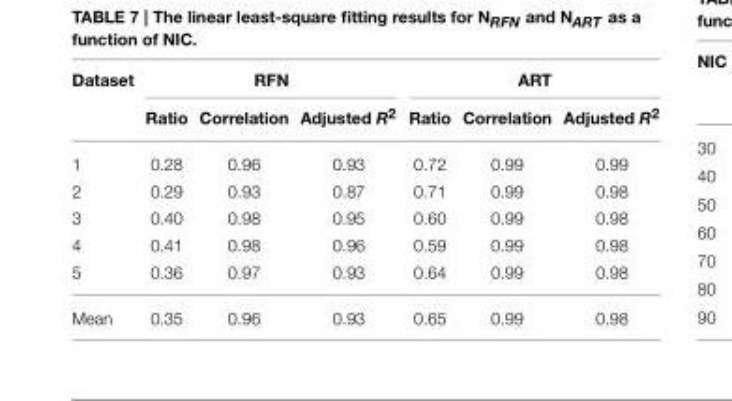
<table><thead><tr><td rowspan="2">Dataset</td><td colspan="3">RFN</td><td colspan="3">ART</td></tr><tr><td>Ratio</td><td>Correlation</td><td>Adjusted R<sup>2</sup></td><td>Ratio</td><td>Correlation</td><td>Adjusted R<sup>2</sup></td></tr></thead><tbody><tr><td>1</td><td>0.28</td><td>0.96</td><td>0.93</td><td>0.72</td><td>0.99</td><td>0.99</td></tr><tr><td>2</td><td>0.29</td><td>0.93</td><td>0.87</td><td>0.71</td><td>0.99</td><td>0.98</td></tr><tr><td>3</td><td>0.40</td><td>0.98</td><td>0.95</td><td>0.60</td><td>0.99</td><td>0.98</td></tr><tr><td>4</td><td>0.41</td><td>0.98</td><td>0.96</td><td>0.59</td><td>0.99</td><td>0.98</td></tr><tr><td>5</td><td>0.36</td><td>0.97</td><td>0.93</td><td>0.64</td><td>0.99</td><td>0.98</td></tr><tr><td>Mean</td><td>0.35</td><td>0.96</td><td>0.93</td><td>0.65</td><td>0.99</td><td>0.98</td></tr></tbody></table>